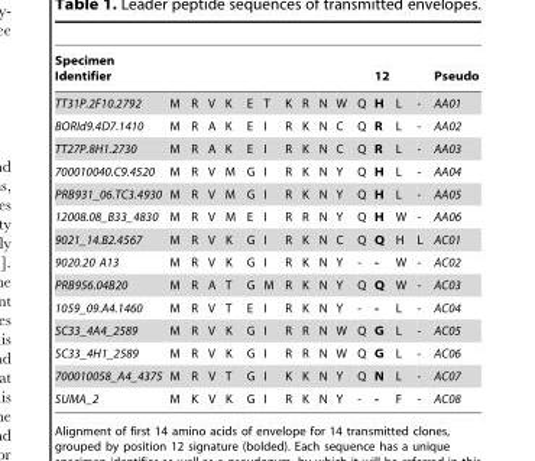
<table><thead><tr><td>Specimen Identifier</td><td></td><td></td><td></td><td></td><td></td><td></td><td></td><td></td><td></td><td></td><td></td><td>12</td><td></td><td></td><td>Pseudo</td></tr></thead><tbody><tr><td>TT31P.2F10.2792</td><td>M</td><td>R</td><td>V</td><td>K</td><td>E</td><td>T</td><td>K</td><td>R</td><td>N</td><td>W</td><td>Q</td><td>H</td><td>L</td><td>-</td><td>AA01</td></tr><tr><td>BORId9.4D7.1410</td><td>M</td><td>R</td><td>A</td><td>K</td><td>E</td><td>I</td><td>R</td><td>K</td><td>N</td><td>C</td><td>Q</td><td>R</td><td>L</td><td>-</td><td>AA02</td></tr><tr><td>TT27P.8H1.2730</td><td>M</td><td>R</td><td>A</td><td>K</td><td>E</td><td>I</td><td>R</td><td>K</td><td>N</td><td>C</td><td>Q</td><td>R</td><td>L</td><td>-</td><td>AA03</td></tr><tr><td>700010040.C9.4520</td><td>M</td><td>R</td><td>V</td><td>M</td><td>G</td><td>I</td><td>R</td><td>K</td><td>N</td><td>Y</td><td>Q</td><td>H</td><td>L</td><td>-</td><td>AA04</td></tr><tr><td>PRB931_06.TC3.4930</td><td>M</td><td>R</td><td>V</td><td>M</td><td>G</td><td>I</td><td>R</td><td>K</td><td>N</td><td>Y</td><td>Q</td><td>H</td><td>L</td><td>-</td><td>AA05</td></tr><tr><td>12008.08_B33_4830</td><td>M</td><td>R</td><td>V</td><td>M</td><td>E</td><td>I</td><td>R</td><td>R</td><td>N</td><td>Y</td><td>Q</td><td>H</td><td>W</td><td>-</td><td>AA06</td></tr><tr><td>9021_14.B2.4567</td><td>M</td><td>R</td><td>V</td><td>K</td><td>G</td><td>I</td><td>R</td><td>K</td><td>N</td><td>C</td><td>Q</td><td>Q</td><td>H</td><td>L</td><td>AC01</td></tr><tr><td>9020.20 A13</td><td>M</td><td>R</td><td>V</td><td>K</td><td>G</td><td>I</td><td>R</td><td>K</td><td>N</td><td>Y</td><td>-</td><td>-</td><td>W</td><td>-</td><td>AC02</td></tr><tr><td>PRB956.04B20</td><td>M</td><td>R</td><td>A</td><td>T</td><td>G</td><td>M</td><td>R</td><td>K</td><td>N</td><td>Y</td><td>Q</td><td>Q</td><td>W</td><td>-</td><td>AC03</td></tr><tr><td>1059_09.A4.1460</td><td>M</td><td>R</td><td>V</td><td>T</td><td>E</td><td>I</td><td>R</td><td>K</td><td>N</td><td>Y</td><td>-</td><td>-</td><td>L</td><td>-</td><td>AC04</td></tr><tr><td>SC33_4A4_2589</td><td>M</td><td>R</td><td>V</td><td>K</td><td>G</td><td>I</td><td>R</td><td>R</td><td>N</td><td>W</td><td>Q</td><td>G</td><td>L</td><td>-</td><td>AC05</td></tr><tr><td>SC33_4H1_2589</td><td>M</td><td>R</td><td>V</td><td>K</td><td>G</td><td>I</td><td>R</td><td>R</td><td>N</td><td>W</td><td>Q</td><td>G</td><td>L</td><td>-</td><td>AC06</td></tr><tr><td>700010058_A4_4375</td><td>M</td><td>R</td><td>V</td><td>T</td><td>G</td><td>I</td><td>K</td><td>K</td><td>N</td><td>Y</td><td>Q</td><td>N</td><td>L</td><td>-</td><td>AC07</td></tr><tr><td>SUMA_2</td><td>M</td><td>K</td><td>V</td><td>K</td><td>G</td><td>I</td><td>R</td><td>K</td><td>N</td><td>Y</td><td>-</td><td>-</td><td>F</td><td>-</td><td>AC08</td></tr></tbody></table>